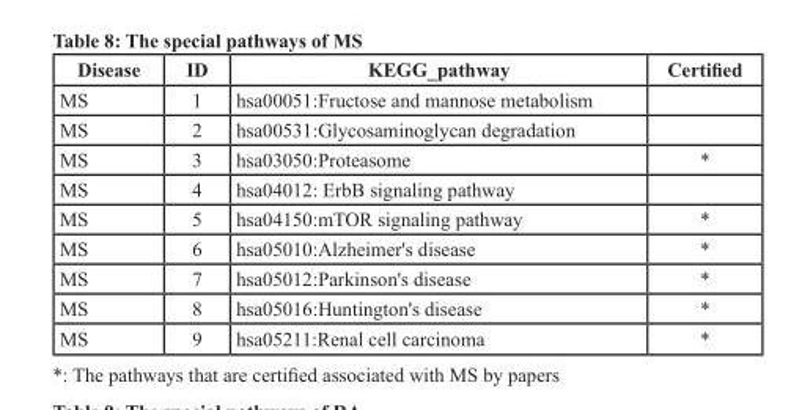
<table><thead><tr><td>Disease</td><td>ID</td><td>KEGG_pathway</td><td>Certified</td></tr></thead><tbody><tr><td>MS</td><td>1</td><td>hsa00051:Fructose and mannose metabolism</td><td></td></tr><tr><td>MS</td><td>2</td><td>hsa00531:Glycosaminoglycan degradation</td><td></td></tr><tr><td>MS</td><td>3</td><td>hsa03050:Proteasome</td><td>*</td></tr><tr><td>MS</td><td>4</td><td>hsa04012: ErbB signaling pathway</td><td></td></tr><tr><td>MS</td><td>5</td><td>hsa04150:mTOR signaling pathway</td><td>*</td></tr><tr><td>MS</td><td>6</td><td>hsa05010:Alzheimer&#x27;s disease</td><td>*</td></tr><tr><td>MS</td><td>7</td><td>hsa05012:Parkinson&#x27;s disease</td><td>*</td></tr><tr><td>MS</td><td>8</td><td>hsa05016:Huntington&#x27;s disease</td><td>*</td></tr><tr><td>MS</td><td>9</td><td>hsa05211:Renal cell carcinoma</td><td>*</td></tr></tbody></table>